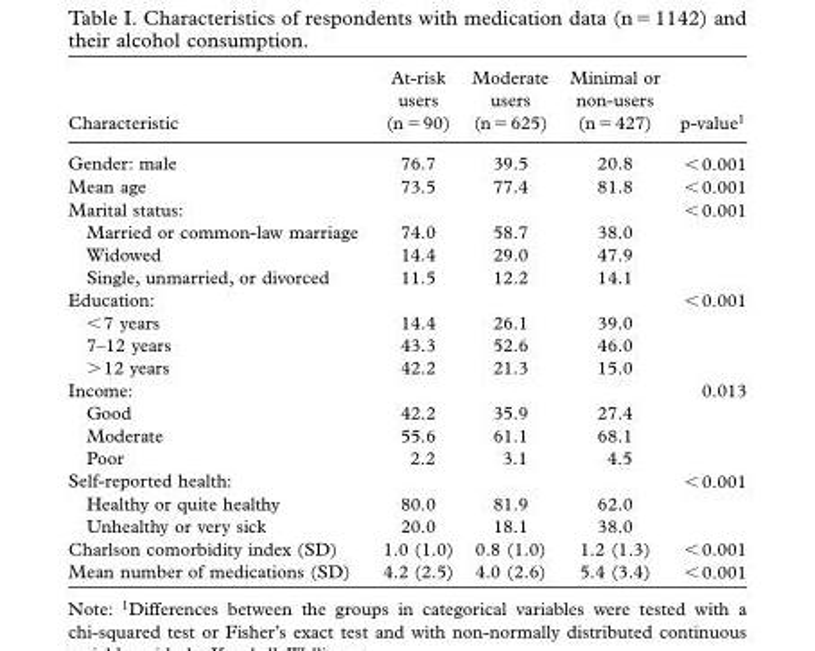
<table><thead><tr><td>Characteristic</td><td>At-risk users (n = 90)</td><td>Moderate users (n = 625)</td><td>Minimal or non-users (n = 427)</td><td>p-value <sup>1</sup></td></tr></thead><tbody><tr><td>Gender: male</td><td>76.7</td><td>39.5</td><td>20.8</td><td>&lt; 0.001</td></tr><tr><td>Mean age</td><td>73.5</td><td>77.4</td><td>81.8</td><td>&lt; 0.001</td></tr><tr><td>Marital status: Married or common-law marriage Widowed Single, unmarried, or divorced</td><td>74.0 14.4 11.5</td><td>58.7 29.0 12.2</td><td>38.0 47.9 14.1</td><td>&lt; 0.001</td></tr><tr><td>Education: &lt; 7 years 7 – 12 years &gt; 12 years</td><td>14.4 43.3 42.2</td><td>26.1 52.6 21.3</td><td>39.0 46.0 15.0</td><td>&lt; 0.001</td></tr><tr><td>Income: Good Moderate Poor</td><td>42.2 55.6 2.2</td><td>35.9 61.1 3.1</td><td>27.4 68.1 4.5</td><td>0.013</td></tr><tr><td>Self-reported health:</td><td></td><td></td><td></td><td>&lt; 0.001</td></tr><tr><td>Healthy or quite healthy Unhealthy or very sick Charlson comorbidity index (SD)</td><td>80.0 20.0 1.0 (1.0)</td><td>81.9 18.1 0.8 (1.0)</td><td>62.0 38.0 1.2 (1.3)</td><td>&lt; 0.001</td></tr><tr><td>Mean number of medications (SD)</td><td>4.2 (2.5)</td><td>4.0 (2.6)</td><td>5.4 (3.4)</td><td>&lt; 0.001</td></tr></tbody></table>